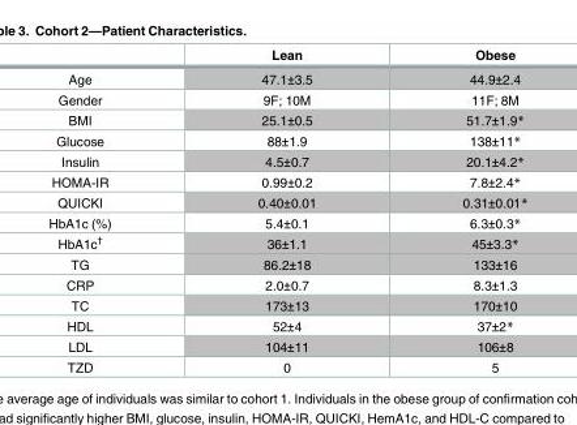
<table><thead><tr><td></td><td>Lean</td><td>Obese</td></tr></thead><tbody><tr><td>Age</td><td>47.1±3.5</td><td>44.9±2.4</td></tr><tr><td>Gender</td><td>9F; 10M</td><td>11F; 8M</td></tr><tr><td>BMI</td><td>25.1±0.5</td><td>51.7±1.9*</td></tr><tr><td>Glucose</td><td>88±1.9</td><td>138±11*</td></tr><tr><td>Insulin</td><td>4.5±0.7</td><td>20.1±4.2*</td></tr><tr><td>HOMA-IR</td><td>0.99±0.2</td><td>7.8±2.4*</td></tr><tr><td>QUICKI</td><td>0.40±0.01</td><td>0.31±0.01*</td></tr><tr><td>HbA1c (%)</td><td>5.4±0.1</td><td>6.3±0.3*</td></tr><tr><td>HbA1c<sup>†</sup></td><td>36±1.1</td><td>45±3.3*</td></tr><tr><td>TG</td><td>86.2±18</td><td>133±16</td></tr><tr><td>CRP</td><td>2.0±0.7</td><td>8.3±1.3</td></tr><tr><td>TC</td><td>173±13</td><td>170±10</td></tr><tr><td>HDL</td><td>52±4</td><td>37±2*</td></tr><tr><td>LDL</td><td>104±11</td><td>106±8</td></tr><tr><td>TZD</td><td>0</td><td>5</td></tr></tbody></table>